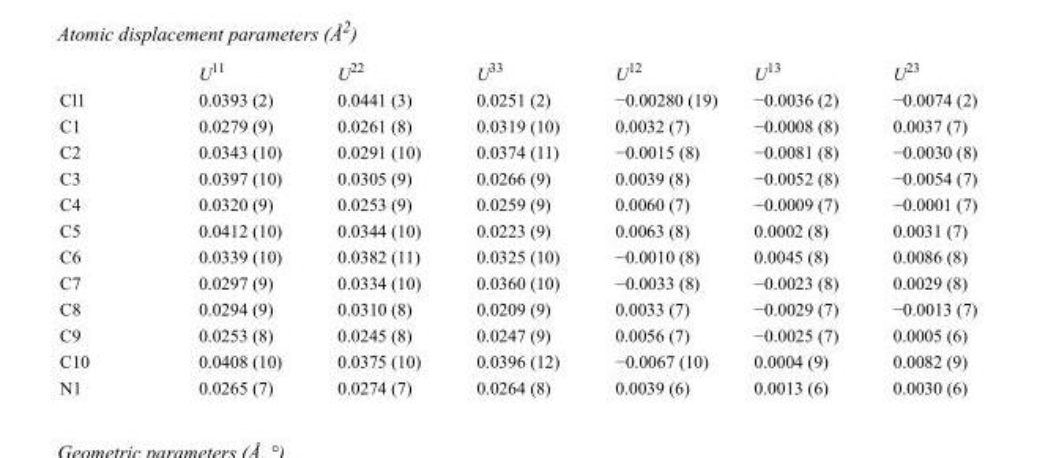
<table><thead><tr><td></td><td>U<sup>11</sup></td><td>U<sup>22</sup></td><td>U<sup>33</sup></td><td>U<sup>12</sup></td><td>U<sup>13</sup></td><td>U<sup>23</sup></td></tr></thead><tbody><tr><td>Cl1</td><td>0.0393 (2)</td><td>0.0441 (3)</td><td>0.0251 (2)</td><td>−0.00280 (19)</td><td>−0.0036 (2)</td><td>−0.0074 (2)</td></tr><tr><td>C1</td><td>0.0279 (9)</td><td>0.0261 (8)</td><td>0.0319 (10)</td><td>0.0032 (7)</td><td>−0.0008 (8)</td><td>0.0037 (7)</td></tr><tr><td>C2</td><td>0.0343 (10)</td><td>0.0291 (10)</td><td>0.0374 (11)</td><td>−0.0015 (8)</td><td>−0.0081 (8)</td><td>−0.0030 (8)</td></tr><tr><td>C3</td><td>0.0397 (10)</td><td>0.0305 (9)</td><td>0.0266 (9)</td><td>0.0039 (8)</td><td>−0.0052 (8)</td><td>−0.0054 (7)</td></tr><tr><td>C4</td><td>0.0320 (9)</td><td>0.0253 (9)</td><td>0.0259 (9)</td><td>0.0060 (7)</td><td>−0.0009 (7)</td><td>−0.0001 (7)</td></tr><tr><td>C5</td><td>0.0412 (10)</td><td>0.0344 (10)</td><td>0.0223 (9)</td><td>0.0063 (8)</td><td>0.0002 (8)</td><td>0.0031 (7)</td></tr><tr><td>C6</td><td>0.0339 (10)</td><td>0.0382 (11)</td><td>0.0325 (10)</td><td>−0.0010 (8)</td><td>0.0045 (8)</td><td>0.0086 (8)</td></tr><tr><td>C7</td><td>0.0297 (9)</td><td>0.0334 (10)</td><td>0.0360 (10)</td><td>−0.0033 (8)</td><td>−0.0023 (8)</td><td>0.0029 (8)</td></tr><tr><td>C8</td><td>0.0294 (9)</td><td>0.0310 (8)</td><td>0.0209 (9)</td><td>0.0033 (7)</td><td>−0.0029 (7)</td><td>−0.0013 (7)</td></tr><tr><td>C9</td><td>0.0253 (8)</td><td>0.0245 (8)</td><td>0.0247 (9)</td><td>0.0056 (7)</td><td>−0.0025 (7)</td><td>0.0005 (6)</td></tr><tr><td>C10</td><td>0.0408 (10)</td><td>0.0375 (10)</td><td>0.0396 (12)</td><td>−0.0067 (10)</td><td>0.0004 (9)</td><td>0.0082 (9)</td></tr><tr><td>N1</td><td>0.0265 (7)</td><td>0.0274 (7)</td><td>0.0264 (8)</td><td>0.0039 (6)</td><td>0.0013 (6)</td><td>0.0030 (6)</td></tr></tbody></table>